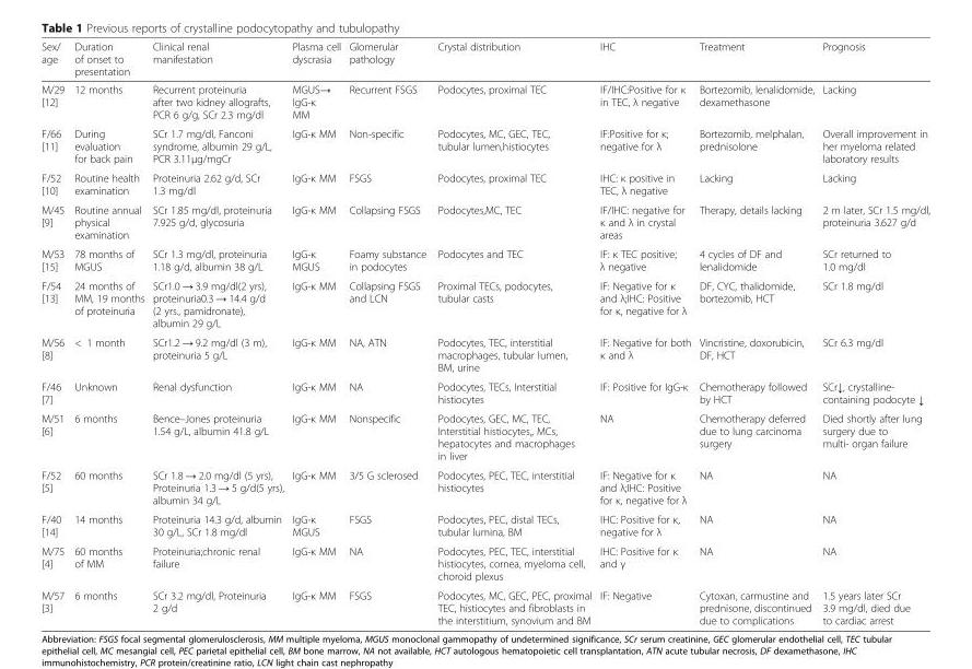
<table><thead><tr><td>Sex/ age</td><td>Duration of onset to presentation</td><td>Clinical renal manifestation</td><td>Plasma cell dyscrasia</td><td>Glomerular pathology</td><td>Crystal distribution</td><td>IHC</td><td>Treatment</td><td>Prognosis</td></tr></thead><tbody><tr><td>M/29 [12]</td><td>12 months</td><td>Recurrent proteinuria after two kidney allografts, PCR 6 g/g, SCr 2.3 mg/dl</td><td>MGUS→ IgG-κ MM</td><td>Recurrent FSGS</td><td>Podocytes, proximal TEC</td><td>IF/IHC:Positive for κ in TEC, λ negative</td><td>Bortezomib, lenalidomide, dexamethasone</td><td>Lacking</td></tr><tr><td>F/66 [11]</td><td>During evaluation for back pain</td><td>SCr 1.7 mg/dl, Fanconi syndrome, albumin 29 g/L, PCR 3.11μg/mgCr</td><td>IgG-κ MM</td><td>Non-specific</td><td>Podocytes, MC, GEC, TEC, tubular lumen,histiocytes</td><td>IF:Positive for κ; negative for λ</td><td>Bortezomib, melphalan, prednisolone</td><td>Overall improvement in her myeloma related laboratory results</td></tr><tr><td>F/52 [10]</td><td>Routine health examination</td><td>Proteinuria 2.62 g/d, SCr 1.3 mg/dl</td><td>IgG-κ MM</td><td>FSGS</td><td>Podocytes, proximal TEC</td><td>IHC: κ positive in TEC, λ negative</td><td>Lacking</td><td>Lacking</td></tr><tr><td>M/45 [9]</td><td>Routine annual physical examination</td><td>SCr 1.85 mg/dl, proteinuria 7.925 g/d, glycosuria</td><td>IgG-κ MM</td><td>Collapsing FSGS</td><td>Podocytes,MC, TEC</td><td>IF/IHC: negative for κ and λ in crystal areas</td><td>Therapy, details lacking</td><td>2 m later, SCr 1.5 mg/dl, proteinuria 3.627 g/d</td></tr><tr><td>M/53 [15]</td><td>78 months of MGUS</td><td>SCr 1.3 mg/dl, proteinuria 1.18 g/d, albumin 38 g/L</td><td>IgG-κ MGUS</td><td>Foamy substance in podocytes</td><td>Podocytes and TEC</td><td>IF: κ TEC positive; λ negative</td><td>4 cycles of DF and lenalidomide</td><td>SCr returned to 1.0 mg/dl</td></tr><tr><td>F/54 [13]</td><td>24 months of MM, 19 months of proteinuria</td><td>SCr1.0 → 3.9 mg/dl(2 yrs), proteinuria0.3 → 14.4 g/d (2 yrs., pamidronate), albumin 29 g/L</td><td>IgG-κ MM</td><td>Collapsing FSGS and LCN</td><td>Proximal TECs, podocytes, tubular casts</td><td>IF: Negative for κ and λ;IHC: Positive for κ, negative for λ</td><td>DF, CYC, thalidomide, bortezomib, HCT</td><td>SCr 1.8 mg/dl</td></tr><tr><td>M/56 [8]</td><td>&lt; 1 month</td><td>SCr1.2 → 9.2 mg/dl (3 m), proteinuria 5 g/L</td><td>IgG-κ MM</td><td>NA, ATN</td><td>Podocytes, TEC, interstitial macrophages, tubular lumen, BM, urine</td><td>IF: Negative for both κ and λ</td><td>Vincristine, doxorubicin, DF, HCT</td><td>SCr 6.3 mg/dl</td></tr><tr><td>F/46 [7]</td><td>Unknown</td><td>Renal dysfunction</td><td>IgG-κ MM</td><td>NA</td><td>Podocytes, TECs, Interstitial histiocytes</td><td>IF: Positive for IgG-κ</td><td>Chemotherapy followed by HCT</td><td>SCr↓, crystalline- containing podocyte ↓</td></tr><tr><td>M/51 [6]</td><td>6 months</td><td>Bence–Jones proteinuria 1.54 g/L, albumin 41.8 g/L</td><td>IgG-κ MM</td><td>Nonspecific</td><td>Podocytes, GEC, MC, TEC, Interstitial histiocytes,, MCs, hepatocytes and macrophages in liver</td><td>NA</td><td>Chemotherapy deferred due to lung carcinoma surgery</td><td>Died shortly after lung surgery due to multi- organ failure</td></tr><tr><td>F/52 [5]</td><td>60 months</td><td>SCr 1.8 → 2.0 mg/dl (5 yrs), Proteinuria 1.3 → 5 g/d(5 yrs), albumin 34 g/L</td><td>IgG-κ MM</td><td>3/5 G sclerosed</td><td>Podocytes, PEC, TEC, interstitial histiocytes</td><td>IF: Negative for κ and λ;IHC: Positive for κ, negative for λ</td><td>NA</td><td>NA</td></tr><tr><td>F/40 [14]</td><td>14 months</td><td>Proteinuria 14.3 g/d, albumin 30 g/L, SCr 1.8 mg/dl</td><td>IgG-κ MGUS</td><td>FSGS</td><td>Podocytes, PEC, distal TECs, tubular lumina, BM</td><td>IHC: Positive for κ, negative for λ</td><td>NA</td><td>NA</td></tr><tr><td>M/75 [4]</td><td>60 months of MM</td><td>Proteinuria;chronic renal failure</td><td>IgG-κ MM</td><td>NA</td><td>Podocytes, PEC, TEC, interstitial histiocytes, cornea, myeloma cell, choroid plexus</td><td>IHC: Positive for κ and γ</td><td>NA</td><td>NA</td></tr><tr><td>M/57 [3]</td><td>6 months</td><td>SCr 3.2 mg/dl, Proteinuria 2 g/d</td><td>IgG-κ MM</td><td>FSGS</td><td>Podocytes, MC, GEC, PEC, proximal TEC, histiocytes and fibroblasts in the interstitium, synovium and BM</td><td>IF: Negative</td><td>Cytoxan, carmustine and prednisone, discontinued due to complications</td><td>1.5 years later SCr 3.9 mg/dl, died due to cardiac arrest</td></tr></tbody></table>